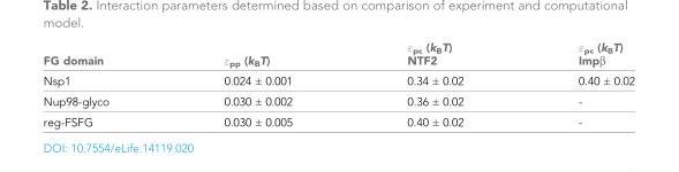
<table><thead><tr><td>FG domain</td><td>&quot;pp (kBT)</td><td>&quot;pc (kBT) NTF2</td><td>&quot;pc (kBT) Impb</td></tr></thead><tbody><tr><td>Nsp1</td><td>0.024 ± 0.001</td><td>0.34 ± 0.02</td><td>0.40 ± 0.02</td></tr><tr><td>Nup98-glyco</td><td>0.030 ± 0.002</td><td>0.36 ± 0.02</td><td>-</td></tr><tr><td>reg-FSFG</td><td>0.030 ± 0.005</td><td>0.40 ± 0.02</td><td>-</td></tr></tbody></table>